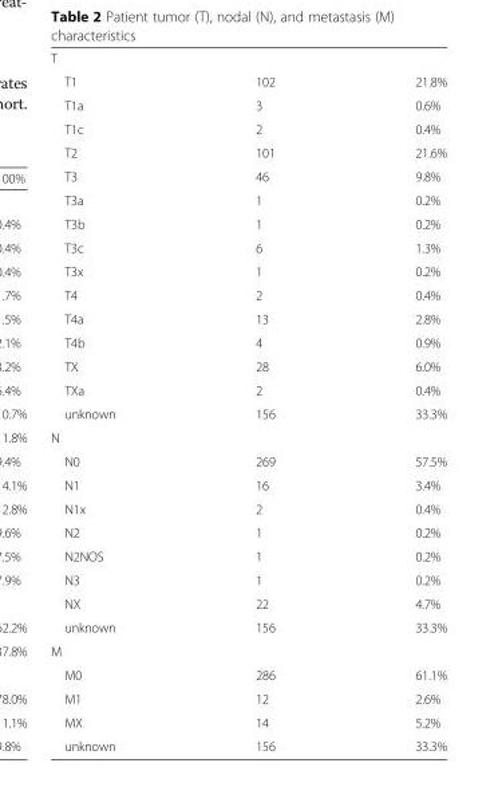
<table><tbody><tr><td colspan="3">T</td></tr><tr><td>T1</td><td>102</td><td>21.8%</td></tr><tr><td>T1a</td><td>3</td><td>0.6%</td></tr><tr><td>T1c</td><td>2</td><td>0.4%</td></tr><tr><td>T2</td><td>101</td><td>21.6%</td></tr><tr><td>T3</td><td>46</td><td>9.8%</td></tr><tr><td>T3a</td><td>1</td><td>0.2%</td></tr><tr><td>T3b</td><td>1</td><td>0.2%</td></tr><tr><td>T3c</td><td>6</td><td>1.3%</td></tr><tr><td>T3x</td><td>1</td><td>0.2%</td></tr><tr><td>T4</td><td>2</td><td>0.4%</td></tr><tr><td>T4a</td><td>13</td><td>2.8%</td></tr><tr><td>T4b</td><td>4</td><td>0.9%</td></tr><tr><td>TX</td><td>28</td><td>6.0%</td></tr><tr><td>TXa</td><td>2</td><td>0.4%</td></tr><tr><td>unknown</td><td>156</td><td>33.3%</td></tr><tr><td colspan="3">N</td></tr><tr><td>N0</td><td>269</td><td>57.5%</td></tr><tr><td>N1</td><td>16</td><td>3.4%</td></tr><tr><td>N1x</td><td>2</td><td>0.4%</td></tr><tr><td>N2</td><td>1</td><td>0.2%</td></tr><tr><td>N2NOS</td><td>1</td><td>0.2%</td></tr><tr><td>N3</td><td>1</td><td>0.2%</td></tr><tr><td>NX</td><td>22</td><td>4.7%</td></tr><tr><td>unknown</td><td>156</td><td>33.3%</td></tr><tr><td colspan="3">M</td></tr><tr><td>M0</td><td>286</td><td>61.1%</td></tr><tr><td>M1</td><td>12</td><td>2.6%</td></tr><tr><td>MX</td><td>14</td><td>5.2%</td></tr><tr><td>unknown</td><td>156</td><td>33.3%</td></tr></tbody></table>